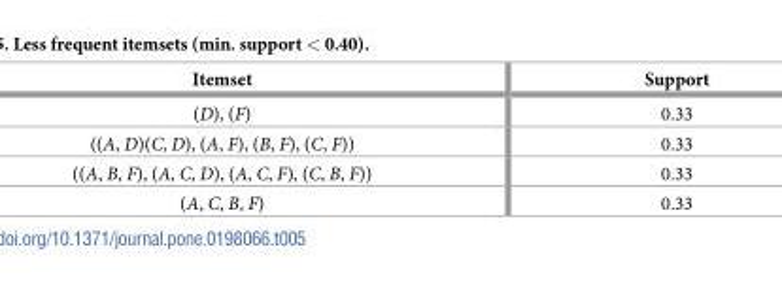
<table><thead><tr><td>Itemset</td><td>Support</td></tr></thead><tbody><tr><td>(D), (F)</td><td>0.33</td></tr><tr><td>((A, D)(C, D), (A, F), (B, F), (C, F))</td><td>0.33</td></tr><tr><td>((A, B, F), (A, C, D), (A, C, F), (C, B, F))</td><td>0.33</td></tr><tr><td>(A, C, B, F)</td><td>0.33</td></tr></tbody></table>